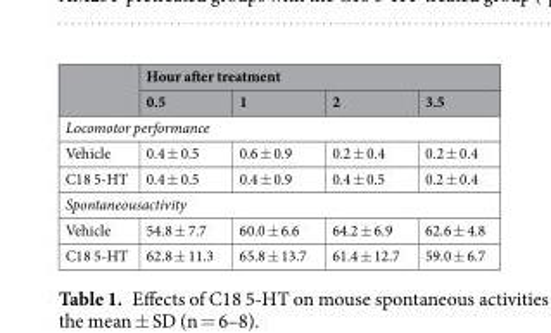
<table><thead><tr><td rowspan="2"></td><td colspan="4">Hour after treatment</td></tr><tr><td>0.5</td><td>1</td><td>2</td><td>3.5</td></tr></thead><tbody><tr><td colspan="5">Locomotor performance</td></tr><tr><td>Vehicle</td><td>0.4 ± 0.5</td><td>0.6 ± 0.9</td><td>0.2 ± 0.4</td><td>0.2 ± 0.4</td></tr><tr><td>C18 5-HT</td><td>0.4 ± 0.5</td><td>0.4 ± 0.9</td><td>0.4 ± 0.5</td><td>0.2 ± 0.4</td></tr><tr><td colspan="5">Spontaneousactivity</td></tr><tr><td>Vehicle</td><td>54.8 ± 7.7</td><td>60.0 ± 6.6</td><td>64.2 ± 6.9</td><td>62.6 ± 4.8</td></tr><tr><td>C18 5-HT</td><td>62.8 ± 11.3</td><td>65.8 ± 13.7</td><td>61.4 ± 12.7</td><td>59.0 ± 6.7</td></tr></tbody></table>